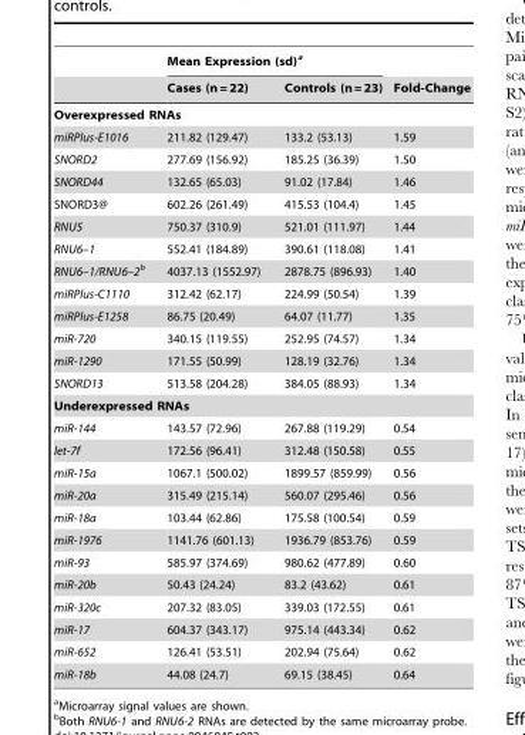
<table><thead><tr><td rowspan="2"></td><td colspan="2">Mean Expression (sd)<sup>a</sup></td><td rowspan="2">Fold-Change</td></tr><tr><td>Cases (n = 22)</td><td>Controls (n = 23)</td></tr></thead><tbody><tr><td colspan="4">Overexpressed RNAs</td></tr><tr><td>miRPlus-E1016</td><td>211.82 (129.47)</td><td>133.2 (53.13)</td><td>1.59</td></tr><tr><td>SNORD2</td><td>277.69 (156.92)</td><td>185.25 (36.39)</td><td>1.50</td></tr><tr><td>SNORD44</td><td>132.65 (65.03)</td><td>91.02 (17.84)</td><td>1.46</td></tr><tr><td>SNORD3@</td><td>602.26 (261.49)</td><td>415.53 (104.4)</td><td>1.45</td></tr><tr><td>RNU5</td><td>750.37 (310.9)</td><td>521.01 (111.97)</td><td>1.44</td></tr><tr><td>RNU6–1</td><td>552.41 (184.89)</td><td>390.61 (118.08)</td><td>1.41</td></tr><tr><td>RNU6–1/RNU6–2b</td><td>4037.13 (1552.97)</td><td>2878.75 (896.93)</td><td>1.40</td></tr><tr><td>miRPlus-C1110</td><td>312.42 (62.17)</td><td>224.99 (50.54)</td><td>1.39</td></tr><tr><td>miRPlus-E1258</td><td>86.75 (20.49)</td><td>64.07 (11.77)</td><td>1.35</td></tr><tr><td>miR-720</td><td>340.15 (119.55)</td><td>252.95 (74.57)</td><td>1.34</td></tr><tr><td>miR-1290</td><td>171.55 (50.99)</td><td>128.19 (32.76)</td><td>1.34</td></tr><tr><td>SNORD13</td><td>513.58 (204.28)</td><td>384.05 (88.93)</td><td>1.34</td></tr><tr><td colspan="4">Underexpressed RNAs</td></tr><tr><td>miR-144</td><td>143.57 (72.96)</td><td>267.88 (119.29)</td><td>0.54</td></tr><tr><td>let-7f</td><td>172.56 (96.41)</td><td>312.48 (150.58)</td><td>0.55</td></tr><tr><td>miR-15a</td><td>1067.1 (500.02)</td><td>1899.57 (859.99)</td><td>0.56</td></tr><tr><td>miR-20a</td><td>315.49 (215.14)</td><td>560.07 (295.46)</td><td>0.56</td></tr><tr><td>miR-18a</td><td>103.44 (62.86)</td><td>175.58 (100.54)</td><td>0.59</td></tr><tr><td>miR-1976</td><td>1141.76 (601.13)</td><td>1936.79 (853.76)</td><td>0.59</td></tr><tr><td>miR-93</td><td>585.97 (374.69)</td><td>980.62 (477.89)</td><td>0.60</td></tr><tr><td>miR-20b</td><td>50.43 (24.24)</td><td>83.2 (43.62)</td><td>0.61</td></tr><tr><td>miR-320c</td><td>207.32 (83.05)</td><td>339.03 (172.55)</td><td>0.61</td></tr><tr><td>miR-17</td><td>604.37 (343.17)</td><td>975.14 (443.34)</td><td>0.62</td></tr><tr><td>miR-652</td><td>126.41 (53.51)</td><td>202.94 (75.64)</td><td>0.62</td></tr><tr><td>miR-18b</td><td>44.08 (24.7)</td><td>69.15 (38.45)</td><td>0.64</td></tr></tbody></table>